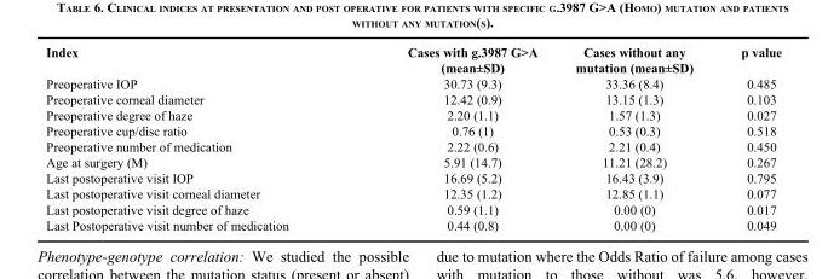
<table><thead><tr><td>Index</td><td>Cases with g.3987 G&gt;A (mean±SD)</td><td>Cases without any mutation (mean±SD)</td><td>p value</td></tr></thead><tbody><tr><td>Preoperative IOP</td><td>30.73 (9.3)</td><td>33.36 (8.4)</td><td>0.485</td></tr><tr><td>Preoperative corneal diameter</td><td>12.42 (0.9)</td><td>13.15 (1.3)</td><td>0.103</td></tr><tr><td>Preoperative degree of haze</td><td>2.20 (1.1)</td><td>1.57 (1.3)</td><td>0.027</td></tr><tr><td>Preoperative cup/disc ratio</td><td>0.76 (1)</td><td>0.53 (0.3)</td><td>0.518</td></tr><tr><td>Preoperative number of medication</td><td>2.22 (0.6)</td><td>2.21 (0.4)</td><td>0.450</td></tr><tr><td>Age at surgery (M)</td><td>5.91 (14.7)</td><td>11.21 (28.2)</td><td>0.267</td></tr><tr><td>Last postoperative visit IOP</td><td>16.69 (5.2)</td><td>16.43 (3.9)</td><td>0.795</td></tr><tr><td>Last postoperative visit corneal diameter</td><td>12.35 (1.2)</td><td>12.85 (1.1)</td><td>0.077</td></tr><tr><td>Last postoperative visit degree of haze</td><td>0.59 (1.1)</td><td>0.00 (0)</td><td>0.017</td></tr><tr><td>Last Postoperative visit number of medication</td><td>0.44 (0.8)</td><td>0.00 (0)</td><td>0.049</td></tr></tbody></table>